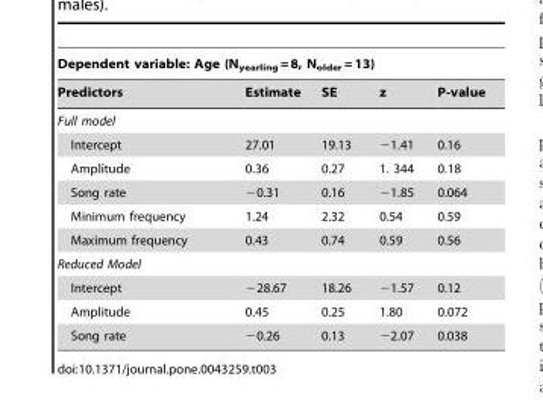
<table><thead><tr><td colspan="5">Dependent variable: Age (N<sub>yearling</sub> = 8, N<sub>older</sub> = 13)</td></tr><tr><td>Predictors</td><td>Estimate</td><td>SE</td><td>z</td><td>P-value</td></tr></thead><tbody><tr><td colspan="5">Full model</td></tr><tr><td>Intercept</td><td>27.01</td><td>19.13</td><td>−1.41</td><td>0.16</td></tr><tr><td>Amplitude</td><td>0.36</td><td>0.27</td><td>1. 344</td><td>0.18</td></tr><tr><td>Song rate</td><td>−0.31</td><td>0.16</td><td>−1.85</td><td>0.064</td></tr><tr><td>Minimum frequency</td><td>1.24</td><td>2.32</td><td>0.54</td><td>0.59</td></tr><tr><td>Maximum frequency</td><td>0.43</td><td>0.74</td><td>0.59</td><td>0.56</td></tr><tr><td colspan="5">Reduced Model</td></tr><tr><td>Intercept</td><td>−28.67</td><td>18.26</td><td>−1.57</td><td>0.12</td></tr><tr><td>Amplitude</td><td>0.45</td><td>0.25</td><td>1.80</td><td>0.072</td></tr><tr><td>Song rate</td><td>−0.26</td><td>0.13</td><td>−2.07</td><td>0.038</td></tr></tbody></table>